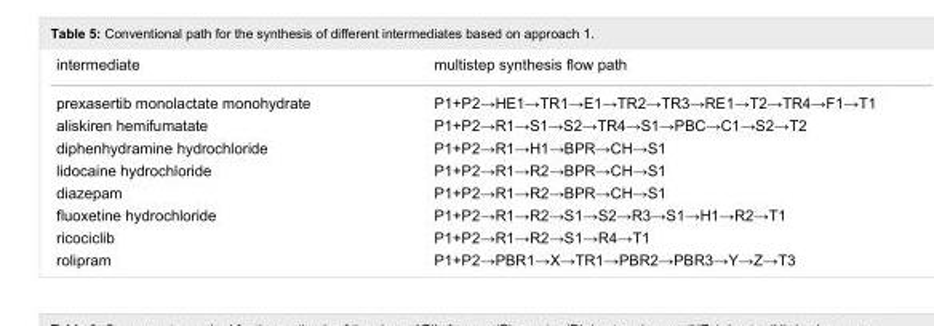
<table><tbody><tr><td>intermediate</td><td>multistep synthesis flow path</td></tr><tr><td>prexasertib monolactate monohydrate</td><td>P1+P2→HE1→TR1→E1→TR2→TR3→RE1→T2→TR4→F1→T1</td></tr><tr><td>aliskiren hemifumatate</td><td>P1+P2→R1→S1→S2→TR4→S1→PBC→C1→S2→T2</td></tr><tr><td>diphenhydramine hydrochloride</td><td>P1+P2→R1→H1→BPR→CH→S1</td></tr><tr><td>lidocaine hydrochloride</td><td>P1+P2→R1→R2→BPR→CH→S1</td></tr><tr><td>diazepam</td><td>P1+P2→R1→R2→BPR→CH→S1</td></tr><tr><td>fluoxetine hydrochloride</td><td>P1+P2→R1→R2→S1→S2→R3→S1→H1→R2→T1</td></tr><tr><td>ricociclib</td><td>P1+P2→R1→R2→S1→R4→T1</td></tr><tr><td>rolipram</td><td>P1+P2→PBR1→X→TR1→PBR2→PBR3→Y→Z→T3</td></tr></tbody></table>